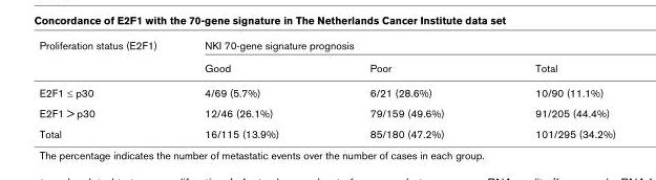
<table><thead><tr><td rowspan="2">Proliferation status (E2F1)</td><td colspan="3">NKI 70-gene signature prognosis</td></tr><tr><td>Good</td><td>Poor</td><td>Total</td></tr></thead><tbody><tr><td>E2F1 ≤ p30</td><td>4/69 (5.7%)</td><td>6/21 (28.6%)</td><td>10/90 (11.1%)</td></tr><tr><td>E2F1 &gt; p30</td><td>12/46 (26.1%)</td><td>79/159 (49.6%)</td><td>91/205 (44.4%)</td></tr><tr><td>Total</td><td>16/115 (13.9%)</td><td>85/180 (47.2%)</td><td>101/295 (34.2%)</td></tr></tbody></table>